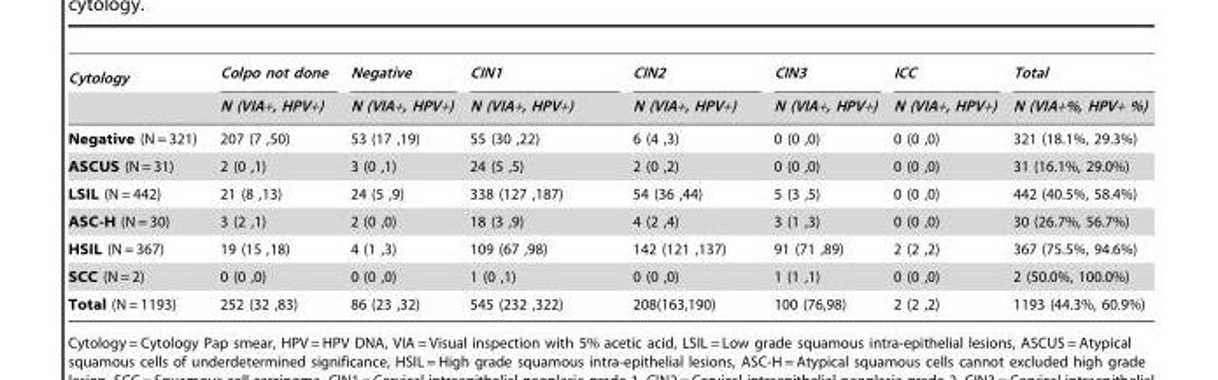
<table><thead><tr><td rowspan="2">Cytology</td><td rowspan="2">Colpo not done N (VIA+, HPV+)</td><td rowspan="2">Negative N (VIA+, HPV+)</td><td rowspan="2">CIN1 N (VIA+, HPV+)</td><td rowspan="2">CIN2 N (VIA+, HPV+)</td><td rowspan="2">CIN3 N (VIA+, HPV+)</td><td rowspan="2">ICC N (VIA+, HPV+)</td><td rowspan="2">Total N (VIA+%, HPV+ %)</td></tr><tr></tr></thead><tbody><tr><td>Negative (N = 321)</td><td>207 (7 ,50)</td><td>53 (17 ,19)</td><td>55 (30 ,22)</td><td>6 (4 ,3)</td><td>0 (0 ,0)</td><td>0 (0 ,0)</td><td>321 (18.1%, 29.3%)</td></tr><tr><td>ASCUS (N = 31)</td><td>2 (0 ,1)</td><td>3 (0 ,1)</td><td>24 (5 ,5)</td><td>2 (0 ,2)</td><td>0 (0 ,0)</td><td>0 (0 ,0)</td><td>31 (16.1%, 29.0%)</td></tr><tr><td>LSIL (N = 442)</td><td>21 (8 ,13)</td><td>24 (5 ,9)</td><td>338 (127 ,187)</td><td>54 (36 ,44)</td><td>5 (3 ,5)</td><td>0 (0 ,0)</td><td>442 (40.5%, 58.4%)</td></tr><tr><td>ASC-H (N = 30)</td><td>3 (2 ,1)</td><td>2 (0 ,0)</td><td>18 (3 ,9)</td><td>4 (2 ,4)</td><td>3 (1 ,3)</td><td>0 (0 ,0)</td><td>30 (26.7%, 56.7%)</td></tr><tr><td>HSIL (N = 367)</td><td>19 (15 ,18)</td><td>4 (1 ,3)</td><td>109 (67 ,98)</td><td>142 (121 ,137)</td><td>91 (71 ,89)</td><td>2 (2 ,2)</td><td>367 (75.5%, 94.6%)</td></tr><tr><td>SCC (N = 2)</td><td>0 (0 ,0)</td><td>0 (0 ,0)</td><td>1 (0 ,1)</td><td>0 (0 ,0)</td><td>1 (1 ,1)</td><td>0 (0 ,0)</td><td>2 (50.0%, 100.0%)</td></tr><tr><td>Total (N = 1193)</td><td>252 (32 ,83)</td><td>86 (23 ,32)</td><td>545 (232 ,322)</td><td>208(163,190)</td><td>100 (76,98)</td><td>2 (2 ,2)</td><td>1193 (44.3%, 60.9%)</td></tr></tbody></table>